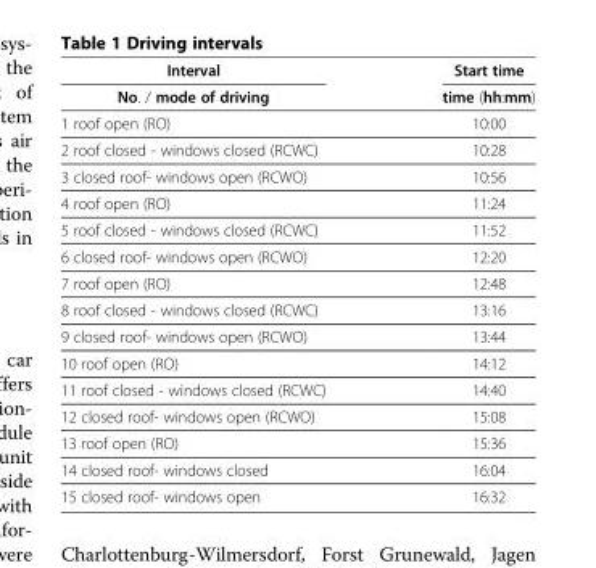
<table><thead><tr><td rowspan="2">Interval No. / mode of driving</td><td rowspan="2">Start time time (hh:mm)</td></tr><tr></tr></thead><tbody><tr><td>1 roof open (RO)</td><td>10:00</td></tr><tr><td>2 roof closed - windows closed (RCWC)</td><td>10:28</td></tr><tr><td>3 closed roof- windows open (RCWO)</td><td>10:56</td></tr><tr><td>4 roof open (RO)</td><td>11:24</td></tr><tr><td>5 roof closed - windows closed (RCWC)</td><td>11:52</td></tr><tr><td>6 closed roof- windows open (RCWO)</td><td>12:20</td></tr><tr><td>7 roof open (RO)</td><td>12:48</td></tr><tr><td>8 roof closed - windows closed (RCWC)</td><td>13:16</td></tr><tr><td>9 closed roof- windows open (RCWO)</td><td>13:44</td></tr><tr><td>10 roof open (RO)</td><td>14:12</td></tr><tr><td>11 roof closed - windows closed (RCWC)</td><td>14:40</td></tr><tr><td>12 closed roof- windows open (RCWO)</td><td>15:08</td></tr><tr><td>13 roof open (RO)</td><td>15:36</td></tr><tr><td>14 closed roof- windows closed</td><td>16:04</td></tr><tr><td>15 closed roof- windows open</td><td>16:32</td></tr></tbody></table>